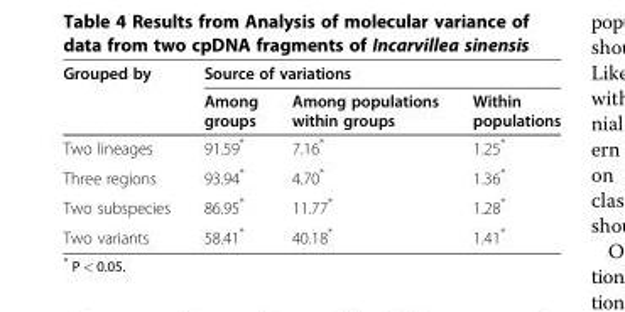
<table><thead><tr><td rowspan="2">Grouped by</td><td colspan="3">Source of variations</td></tr><tr><td>Among groups</td><td>Among populations within groups</td><td>Within populations</td></tr></thead><tbody><tr><td>Two lineages</td><td>91.59*</td><td>7.16*</td><td>1.25*</td></tr><tr><td>Three regions</td><td>93.94*</td><td>4.70*</td><td>1.36*</td></tr><tr><td>Two subspecies</td><td>86.95*</td><td>11.77*</td><td>1.28*</td></tr><tr><td>Two variants</td><td>58.41*</td><td>40.18*</td><td>1.41*</td></tr></tbody></table>